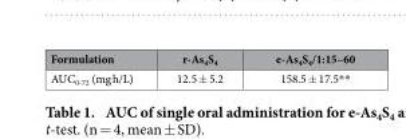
<table><thead><tr><td>Formulation</td><td>r-As<sub>4</sub>S<sub>4</sub></td><td>e-As<sub>4</sub>S<sub>4</sub>/1:15–60</td></tr></thead><tbody><tr><td>AUC<sub>0-72</sub> (mg h/L)</td><td>12.5 ± 5.2</td><td>158.5 ± 17.5**</td></tr></tbody></table>